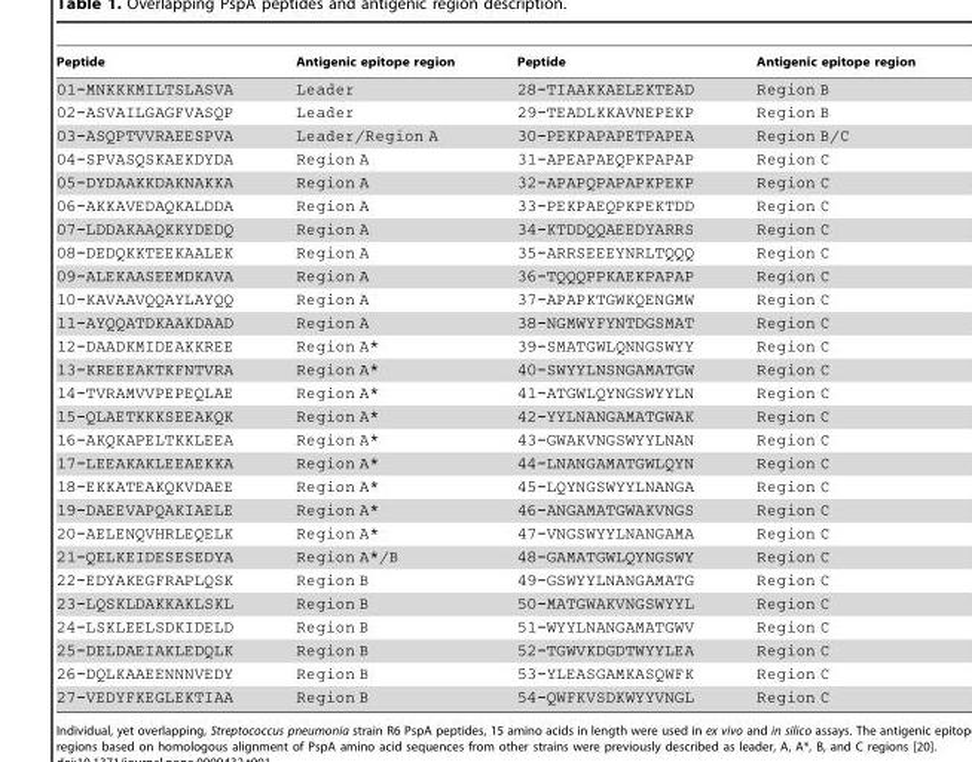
<table><thead><tr><td>Peptide</td><td>Antigenic epitope region</td><td>Peptide</td><td>Antigenic epitope region</td></tr></thead><tbody><tr><td>01-MNKKKMILTSLASVA</td><td>Leader</td><td>28-TIAAKKAELEKTEAD</td><td>Region B</td></tr><tr><td>02-ASVAILGAGFVASQP</td><td>Leader</td><td>29-TEADLKKAVNEPEKP</td><td>Region B</td></tr><tr><td>03-ASQPTVVRAEESPVA</td><td>Leader/Region A</td><td>30-PEKPAPAPETPAPEA</td><td>Region B/C</td></tr><tr><td>04-SPVASQSKAEKDYDA</td><td>Region A</td><td>31-APEAPAEQPKPAPAP</td><td>Region C</td></tr><tr><td>05-DYDAAKKDAKNAKKA</td><td>Region A</td><td>32-APAPQPAPAPKPEKP</td><td>Region C</td></tr><tr><td>06-AKKAVEDAQKALDDA</td><td>Region A</td><td>33-PEKPAEQPKPEKTDD</td><td>Region C</td></tr><tr><td>07-LDDAKAAQKKYDEDQ</td><td>Region A</td><td>34-KTDDQQAEEDYARRS</td><td>Region C</td></tr><tr><td>08-DEDQKKTEEKAALEK</td><td>Region A</td><td>35-ARRSEEEYNRLTQQQ</td><td>Region C</td></tr><tr><td>09-ALEKAASEEMDKAVA</td><td>Region A</td><td>36-TQQQPPKAEKPAPAP</td><td>Region C</td></tr><tr><td>10-KAVAAVQQAYLAYQQ</td><td>Region A</td><td>37-APAPKTGWKQENGMW</td><td>Region C</td></tr><tr><td>11-AYQQATDKAAKDAAD</td><td>Region A</td><td>38-NGMWYFYNTDGSMAT</td><td>Region C</td></tr><tr><td>12-DAADKMIDEAKKREE</td><td>Region A*</td><td>39-SMATGWLQNNGSWYY</td><td>Region C</td></tr><tr><td>13-KREEEAKTKFNTVRA</td><td>Region A*</td><td>40-SWYYLNSNGAMATGW</td><td>Region C</td></tr><tr><td>14-TVRAMVVPEPEQLAE</td><td>Region A*</td><td>41-ATGWLQYNGSWYYLN</td><td>Region C</td></tr><tr><td>15-QLAETKKKSEEAKQK</td><td>Region A*</td><td>42-YYLNANGAMATGWAK</td><td>Region C</td></tr><tr><td>16-AKQKAPELTKKLEEA</td><td>Region A*</td><td>43-GWAKVNGSWYYLNAN</td><td>Region C</td></tr><tr><td>17-LEEAKAKLEEAEKKA</td><td>Region A*</td><td>44-LNANGAMATGWLQYN</td><td>Region C</td></tr><tr><td>18-EKKATEAKQKVDAEE</td><td>Region A*</td><td>45-LQYNGSWYYLNANGA</td><td>Region C</td></tr><tr><td>19-DAEEVAPQAKIAELE</td><td>Region A*</td><td>46-ANGAMATGWAKVNGS</td><td>Region C</td></tr><tr><td>20-AELENQVHRLEQELK</td><td>Region A*</td><td>47-VNGSWYYLNANGAMA</td><td>Region C</td></tr><tr><td>21-QELKEIDESESEDYA</td><td>Region A*/B</td><td>48-GAMATGWLQYNGSWY</td><td>Region C</td></tr><tr><td>22-EDYAKEGFRAPLQSK</td><td>Region B</td><td>49-GSWYYLNANGAMATG</td><td>Region C</td></tr><tr><td>23-LQSKLDAKKAKLSKL</td><td>Region B</td><td>50-MATGWAKVNGSWYYL</td><td>Region C</td></tr><tr><td>24-LSKLEELSDKIDELD</td><td>Region B</td><td>51-WYYLNANGAMATGWV</td><td>Region C</td></tr><tr><td>25-DELDAEIAKLEDQLK</td><td>Region B</td><td>52-TGWVKDGDTWYYLEA</td><td>Region C</td></tr><tr><td>26-DQLKAAEENNNVEDY</td><td>Region B</td><td>53-YLEASGAMKASQWFK</td><td>Region C</td></tr><tr><td>27-VEDYFKEGLEKTIAA</td><td>Region B</td><td>54-QWFKVSDKWYYVNGL</td><td>Region C</td></tr></tbody></table>